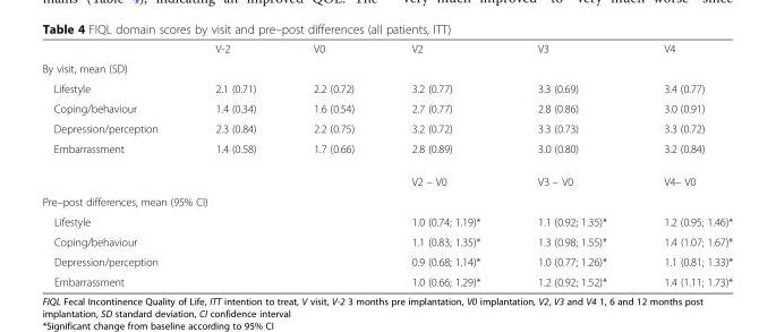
<table><thead><tr><td></td><td>V-2</td><td>V0</td><td>V2</td><td>V3</td><td>V4</td></tr></thead><tbody><tr><td colspan="6">By visit, mean (SD)</td></tr><tr><td>Lifestyle</td><td>2.1 (0.71)</td><td>2.2 (0.72)</td><td>3.2 (0.77)</td><td>3.3 (0.69)</td><td>3.4 (0.77)</td></tr><tr><td>Coping/behaviour</td><td>1.4 (0.34)</td><td>1.6 (0.54)</td><td>2.7 (0.77)</td><td>2.8 (0.86)</td><td>3.0 (0.91)</td></tr><tr><td>Depression/perception</td><td>2.3 (0.84)</td><td>2.2 (0.75)</td><td>3.2 (0.72)</td><td>3.3 (0.73)</td><td>3.3 (0.72)</td></tr><tr><td rowspan="2">Embarrassment</td><td>1.4 (0.58)</td><td>1.7 (0.66)</td><td>2.8 (0.89)</td><td>3.0 (0.80)</td><td>3.2 (0.84)</td></tr><tr><td></td><td></td><td>V2 – V0</td><td>V3 – V0</td><td>V4– V0</td></tr><tr><td colspan="6">Pre–post differences, mean (95% CI)</td></tr><tr><td>Lifestyle</td><td></td><td></td><td>1.0 (0.74; 1.19)*</td><td>1.1 (0.92; 1.35)*</td><td>1.2 (0.95; 1.46)*</td></tr><tr><td>Coping/behaviour</td><td></td><td></td><td>1.1 (0.83; 1.35)*</td><td>1.3 (0.98; 1.55)*</td><td>1.4 (1.07; 1.67)*</td></tr><tr><td>Depression/perception</td><td></td><td></td><td>0.9 (0.68; 1.14)*</td><td>1.0 (0.77; 1.26)*</td><td>1.1 (0.81; 1.33)*</td></tr><tr><td>Embarrassment</td><td></td><td></td><td>1.0 (0.66; 1.29)*</td><td>1.2 (0.92; 1.52)*</td><td>1.4 (1.11; 1.73)*</td></tr></tbody></table>